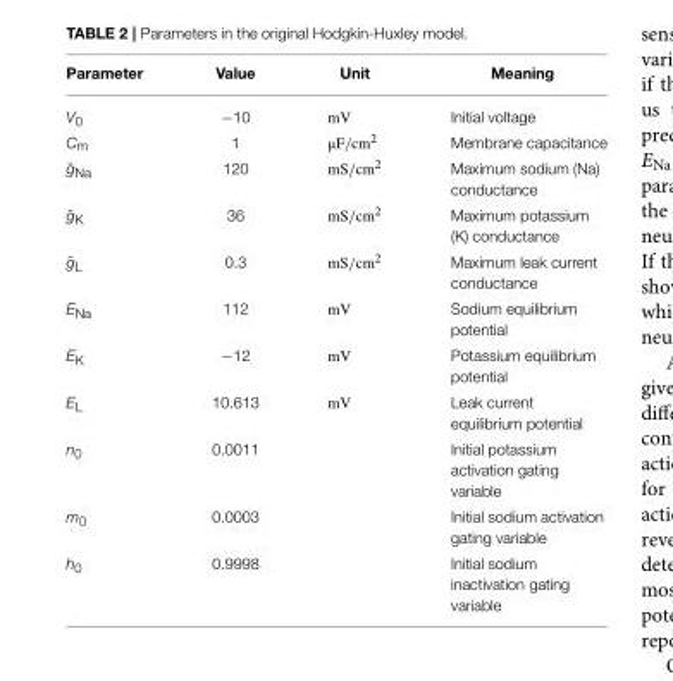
<table><thead><tr><td>Parameter</td><td>Value</td><td>Unit</td><td>Meaning</td></tr></thead><tbody><tr><td>V<sub>0</sub></td><td>−10</td><td>mV</td><td>Initial voltage</td></tr><tr><td>C<sub>m</sub></td><td>1</td><td>µF/cm<sup>2</sup></td><td>Membrane capacitance</td></tr><tr><td>¯gNa</td><td>120</td><td>mS/cm<sup>2</sup></td><td>Maximum sodium (Na) conductance</td></tr><tr><td>¯gK</td><td>36</td><td>mS/cm<sup>2</sup></td><td>Maximum potassium (K) conductance</td></tr><tr><td>¯gL</td><td>0.3</td><td>mS/cm<sup>2</sup></td><td>Maximum leak current conductance</td></tr><tr><td>E<sub>Na</sub></td><td>112</td><td>mV</td><td>Sodium equilibrium potential</td></tr><tr><td>E<sub>K</sub></td><td>−12</td><td>mV</td><td>Potassium equilibrium potential</td></tr><tr><td>E<sub>L</sub></td><td>10.613</td><td>mV</td><td>Leak current equilibrium potential</td></tr><tr><td>n<sub>0</sub></td><td>0.0011</td><td></td><td>Initial potassium activation gating variable</td></tr><tr><td>m<sub>0</sub></td><td>0.0003</td><td></td><td>Initial sodium activation gating variable</td></tr><tr><td>h<sub>0</sub></td><td>0.9998</td><td></td><td>Initial sodium inactivation gating variable</td></tr></tbody></table>